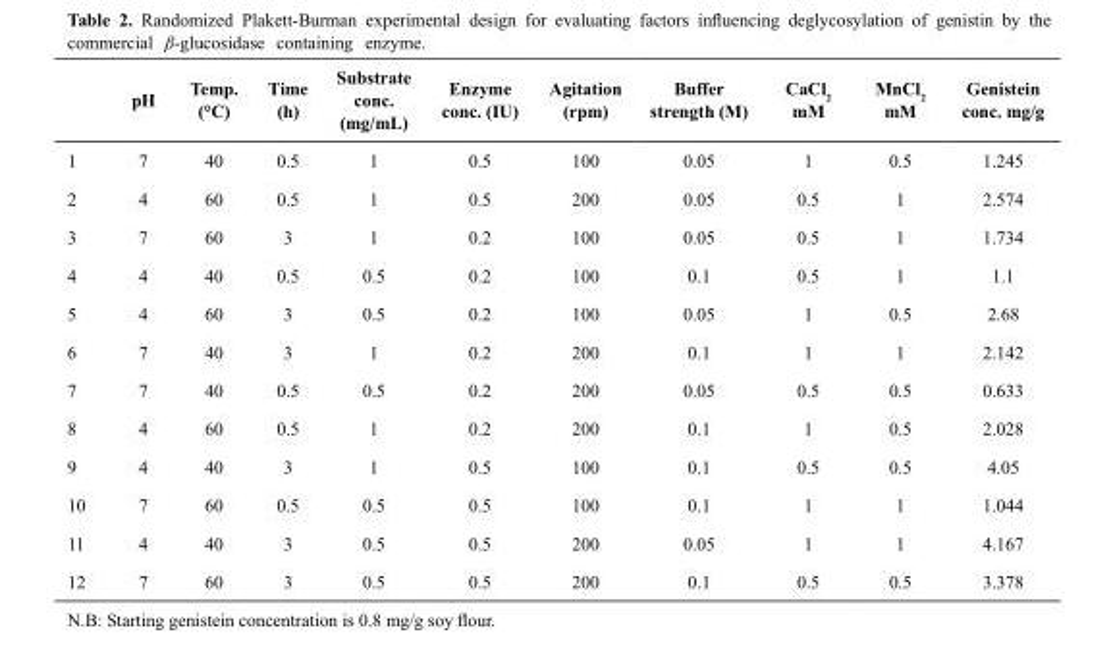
<table><thead><tr><td></td><td>pH</td><td>Temp. (°C)</td><td>Time (h)</td><td>Substrate conc. (mg/mL)</td><td>Enzyme conc. (IU)</td><td>Agitation (rpm)</td><td>Buffer strength (M)</td><td>CaCl<sub>2</sub> mM</td><td>MnCl<sub>2</sub> mM</td><td>Genistein conc. mg/g</td></tr></thead><tbody><tr><td>1</td><td>7</td><td>40</td><td>0.5</td><td>1</td><td>0.5</td><td>100</td><td>0.05</td><td>1</td><td>0.5</td><td>1.245</td></tr><tr><td>2</td><td>4</td><td>60</td><td>0.5</td><td>1</td><td>0.5</td><td>200</td><td>0.05</td><td>0.5</td><td>1</td><td>2.574</td></tr><tr><td>3</td><td>7</td><td>60</td><td>3</td><td>1</td><td>0.2</td><td>100</td><td>0.05</td><td>0.5</td><td>1</td><td>1.734</td></tr><tr><td>4</td><td>4</td><td>40</td><td>0.5</td><td>0.5</td><td>0.2</td><td>100</td><td>0.1</td><td>0.5</td><td>1</td><td>1.1</td></tr><tr><td>5</td><td>4</td><td>60</td><td>3</td><td>0.5</td><td>0.2</td><td>100</td><td>0.05</td><td>1</td><td>0.5</td><td>2.68</td></tr><tr><td>6</td><td>7</td><td>40</td><td>3</td><td>1</td><td>0.2</td><td>200</td><td>0.1</td><td>1</td><td>1</td><td>2.142</td></tr><tr><td>7</td><td>7</td><td>40</td><td>0.5</td><td>0.5</td><td>0.2</td><td>200</td><td>0.05</td><td>0.5</td><td>0.5</td><td>0.633</td></tr><tr><td>8</td><td>4</td><td>60</td><td>0.5</td><td>1</td><td>0.2</td><td>200</td><td>0.1</td><td>1</td><td>0.5</td><td>2.028</td></tr><tr><td>9</td><td>4</td><td>40</td><td>3</td><td>1</td><td>0.5</td><td>100</td><td>0.1</td><td>0.5</td><td>0.5</td><td>4.05</td></tr><tr><td>10</td><td>7</td><td>60</td><td>0.5</td><td>0.5</td><td>0.5</td><td>100</td><td>0.1</td><td>1</td><td>1</td><td>1.044</td></tr><tr><td>11</td><td>4</td><td>40</td><td>3</td><td>0.5</td><td>0.5</td><td>200</td><td>0.05</td><td>1</td><td>1</td><td>4.167</td></tr><tr><td>12</td><td>7</td><td>60</td><td>3</td><td>0.5</td><td>0.5</td><td>200</td><td>0.1</td><td>0.5</td><td>0.5</td><td>3.378</td></tr></tbody></table>